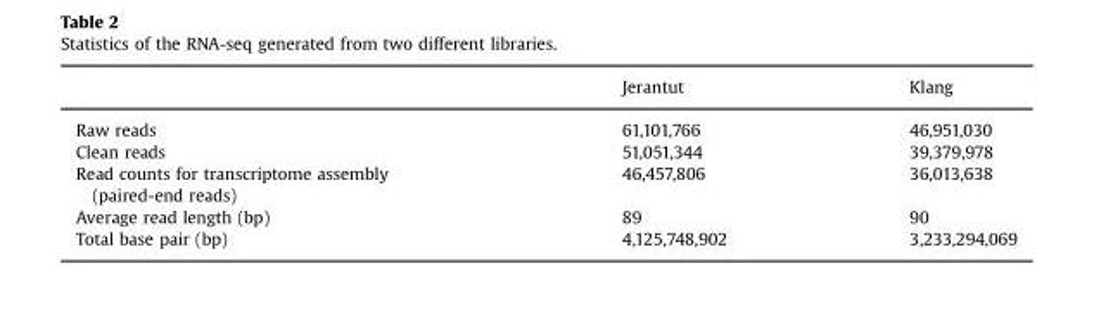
<table><thead><tr><td></td><td>Jerantut</td><td>Klang</td></tr></thead><tbody><tr><td>Raw reads</td><td>61,101,766</td><td>46,951,030</td></tr><tr><td>Clean reads</td><td>51,051,344</td><td>39,379,978</td></tr><tr><td>Read counts for transcriptome assembly (paired-end reads)</td><td>46,457,806</td><td>36,013,638</td></tr><tr><td>Average read length (bp)</td><td>89</td><td>90</td></tr><tr><td>Total base pair (bp)</td><td>4,125,748,902</td><td>3,233,294,069</td></tr></tbody></table>